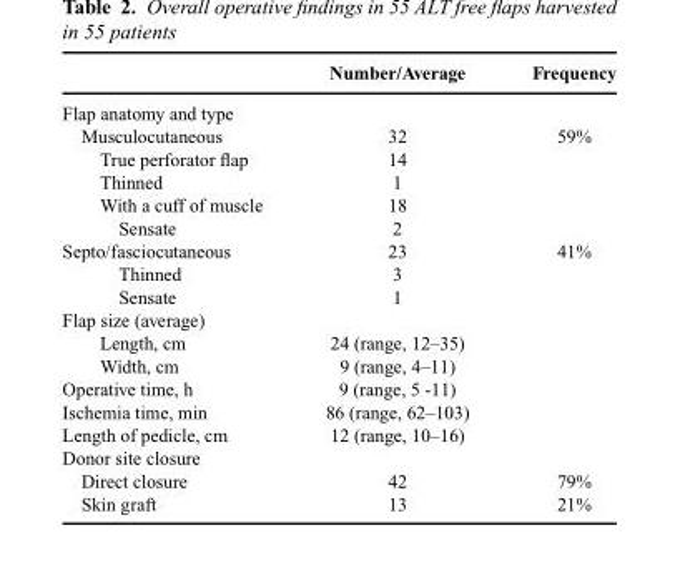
<table><thead><tr><td></td><td>Number/Average</td><td>Frequency</td></tr></thead><tbody><tr><td colspan="3">Flap anatomy and type</td></tr><tr><td>Musculocutaneous</td><td>32</td><td>59%</td></tr><tr><td>True perforator flap</td><td>14</td><td></td></tr><tr><td>Thinned</td><td>1</td><td></td></tr><tr><td>With a cuff of muscle</td><td>18</td><td></td></tr><tr><td>Sensate</td><td>2</td><td></td></tr><tr><td>Septo/fasciocutaneous</td><td>23</td><td>41%</td></tr><tr><td>Thinned</td><td>3</td><td></td></tr><tr><td>Sensate</td><td>1</td><td></td></tr><tr><td colspan="3">Flap size (average)</td></tr><tr><td>Length, cm</td><td>24 (range, 12–35)</td><td></td></tr><tr><td>Width, cm</td><td>9 (range, 4–11)</td><td></td></tr><tr><td>Operative time, h</td><td>9 (range, 5 -11)</td><td></td></tr><tr><td>Ischemia time, min</td><td>86 (range, 62–103)</td><td></td></tr><tr><td>Length of pedicle, cm</td><td>12 (range, 10–16)</td><td></td></tr><tr><td colspan="3">Donor site closure</td></tr><tr><td>Direct closure</td><td>42</td><td>79%</td></tr><tr><td>Skin graft</td><td>13</td><td>21%</td></tr></tbody></table>